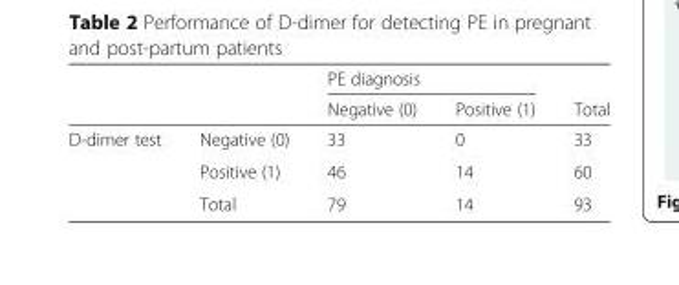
<table><thead><tr><td rowspan="2"></td><td rowspan="2"></td><td colspan="2">PE diagnosis</td><td rowspan="2">Total</td></tr><tr><td>Negative (0)</td><td>Positive (1)</td></tr></thead><tbody><tr><td rowspan="3">D-dimer test</td><td>Negative (0)</td><td>33</td><td>0</td><td>33</td></tr><tr><td>Positive (1)</td><td>46</td><td>14</td><td>60</td></tr><tr><td>Total</td><td>79</td><td>14</td><td>93</td></tr></tbody></table>